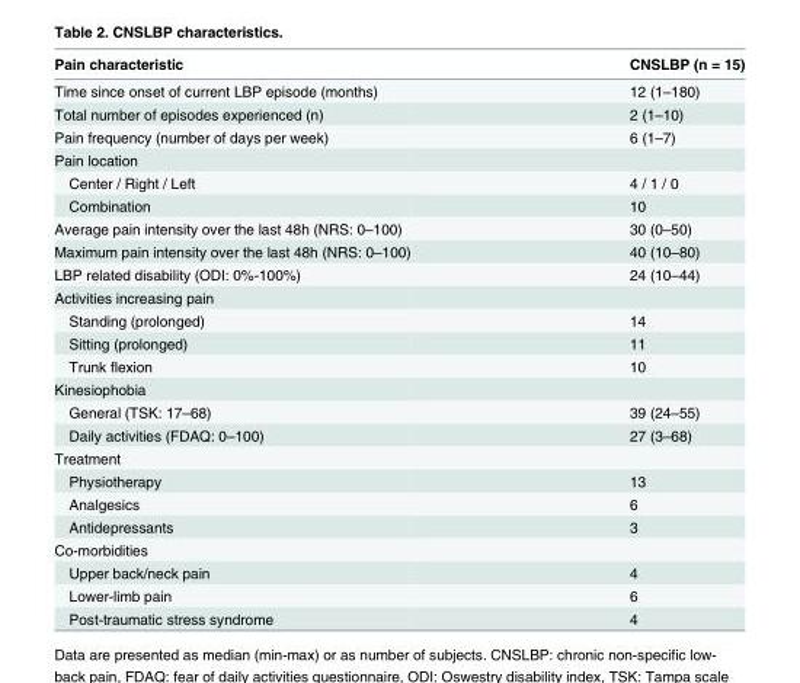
<table><thead><tr><td>Pain characteristic</td><td>CNSLBP (n = 15)</td></tr></thead><tbody><tr><td>Time since onset of current LBP episode (months)</td><td>12 (1–180)</td></tr><tr><td>Total number of episodes experienced (n)</td><td>2 (1–10)</td></tr><tr><td>Pain frequency (number of days per week)</td><td>6 (1–7)</td></tr><tr><td colspan="2">Pain location</td></tr><tr><td>Center / Right / Left</td><td>4 / 1 / 0</td></tr><tr><td>Combination</td><td>10</td></tr><tr><td>Average pain intensity over the last 48h (NRS: 0–100)</td><td>30 (0–50)</td></tr><tr><td>Maximum pain intensity over the last 48h (NRS: 0–100)</td><td>40 (10–80)</td></tr><tr><td>LBP related disability (ODI: 0%-100%)</td><td>24 (10–44)</td></tr><tr><td colspan="2">Activities increasing pain</td></tr><tr><td>Standing (prolonged)</td><td>14</td></tr><tr><td>Sitting (prolonged)</td><td>11</td></tr><tr><td>Trunk flexion</td><td>10</td></tr><tr><td colspan="2">Kinesiophobia</td></tr><tr><td>General (TSK: 17–68)</td><td>39 (24–55)</td></tr><tr><td>Daily activities (FDAQ: 0–100)</td><td>27 (3–68)</td></tr><tr><td colspan="2">Treatment</td></tr><tr><td>Physiotherapy</td><td>13</td></tr><tr><td>Analgesics</td><td>6</td></tr><tr><td>Antidepressants</td><td>3</td></tr><tr><td colspan="2">Co-morbidities</td></tr><tr><td>Upper back/neck pain</td><td>4</td></tr><tr><td>Lower-limb pain</td><td>6</td></tr><tr><td>Post-traumatic stress syndrome</td><td>4</td></tr></tbody></table>